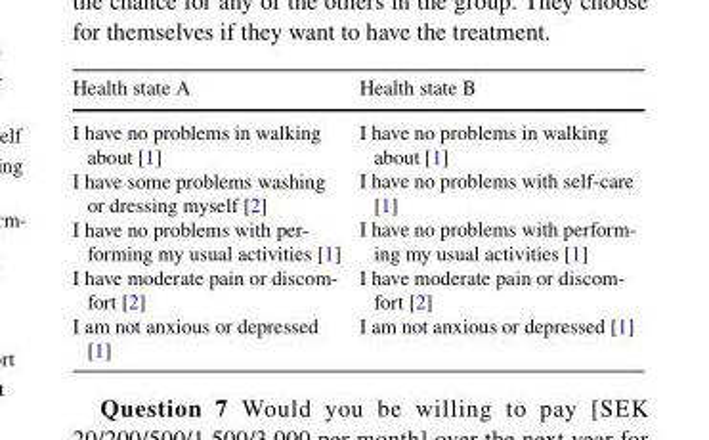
<table><thead><tr><td>Health state A</td><td>Health state B</td></tr></thead><tbody><tr><td>I have no problems in walking about [1] I have some problems washing or dressing myself [2] I have no problems with per- forming my usual activities [1] I have moderate pain or discom- fort [2] I am not anxious or depressed [1]</td><td>I have no problems in walking about [1] I have no problems with self-care [1] I have no problems with perform- ing my usual activities [1] I have moderate pain or discom- fort [2] I am not anxious or depressed [1]</td></tr></tbody></table>